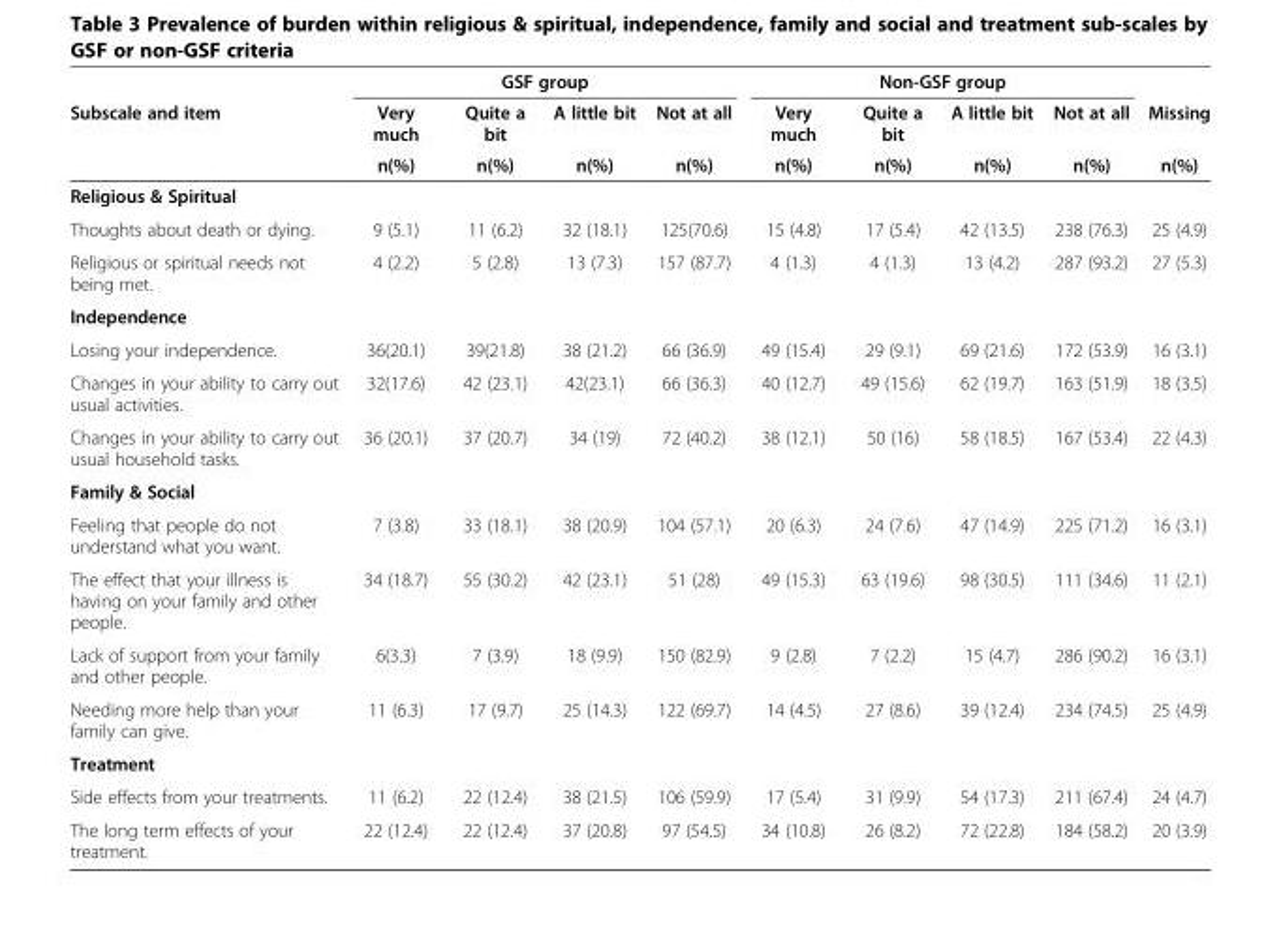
<table><thead><tr><td rowspan="3">Subscale and item</td><td colspan="4">GSF group</td><td colspan="4">Non-GSF group</td><td rowspan="3">Missing n(%)</td></tr><tr><td rowspan="2">Very much n(%)</td><td rowspan="2">Quite a bit n(%)</td><td rowspan="2">A little bit n(%)</td><td rowspan="2">Not at all n(%)</td><td rowspan="2">Very much n(%)</td><td rowspan="2">Quite a bit n(%)</td><td rowspan="2">A little bit n(%)</td><td rowspan="2">Not at all n(%)</td></tr><tr></tr></thead><tbody><tr><td colspan="10">Religious &amp; Spiritual</td></tr><tr><td>Thoughts about death or dying.</td><td>9 (5.1)</td><td>11 (6.2)</td><td>32 (18.1)</td><td>125(70.6)</td><td>15 (4.8)</td><td>17 (5.4)</td><td>42 (13.5)</td><td>238 (76.3)</td><td>25 (4.9)</td></tr><tr><td>Religious or spiritual needs not being met.</td><td>4 (2.2)</td><td>5 (2.8)</td><td>13 (7.3)</td><td>157 (87.7)</td><td>4 (1.3)</td><td>4 (1.3)</td><td>13 (4.2)</td><td>287 (93.2)</td><td>27 (5.3)</td></tr><tr><td colspan="10">Independence</td></tr><tr><td>Losing your independence.</td><td>36(20.1)</td><td>39(21.8)</td><td>38 (21.2)</td><td>66 (36.9)</td><td>49 (15.4)</td><td>29 (9.1)</td><td>69 (21.6)</td><td>172 (53.9)</td><td>16 (3.1)</td></tr><tr><td>Changes in your ability to carry out usual activities.</td><td>32(17.6)</td><td>42 (23.1)</td><td>42(23.1)</td><td>66 (36.3)</td><td>40 (12.7)</td><td>49 (15.6)</td><td>62 (19.7)</td><td>163 (51.9)</td><td>18 (3.5)</td></tr><tr><td>Changes in your ability to carry out usual household tasks.</td><td>36 (20.1)</td><td>37 (20.7)</td><td>34 (19)</td><td>72 (40.2)</td><td>38 (12.1)</td><td>50 (16)</td><td>58 (18.5)</td><td>167 (53.4)</td><td>22 (4.3)</td></tr><tr><td colspan="10">Family &amp; Social</td></tr><tr><td>Feeling that people do not understand what you want.</td><td>7 (3.8)</td><td>33 (18.1)</td><td>38 (20.9)</td><td>104 (57.1)</td><td>20 (6.3)</td><td>24 (7.6)</td><td>47 (14.9)</td><td>225 (71.2)</td><td>16 (3.1)</td></tr><tr><td>The effect that your illness is having on your family and other people.</td><td>34 (18.7)</td><td>55 (30.2)</td><td>42 (23.1)</td><td>51 (28)</td><td>49 (15.3)</td><td>63 (19.6)</td><td>98 (30.5)</td><td>111 (34.6)</td><td>11 (2.1)</td></tr><tr><td>Lack of support from your family and other people.</td><td>6(3.3)</td><td>7 (3.9)</td><td>18 (9.9)</td><td>150 (82.9)</td><td>9 (2.8)</td><td>7 (2.2)</td><td>15 (4.7)</td><td>286 (90.2)</td><td>16 (3.1)</td></tr><tr><td>Needing more help than your family can give.</td><td>11 (6.3)</td><td>17 (9.7)</td><td>25 (14.3)</td><td>122 (69.7)</td><td>14 (4.5)</td><td>27 (8.6)</td><td>39 (12.4)</td><td>234 (74.5)</td><td>25 (4.9)</td></tr><tr><td colspan="10">Treatment</td></tr><tr><td>Side effects from your treatments.</td><td>11 (6.2)</td><td>22 (12.4)</td><td>38 (21.5)</td><td>106 (59.9)</td><td>17 (5.4)</td><td>31 (9.9)</td><td>54 (17.3)</td><td>211 (67.4)</td><td>24 (4.7)</td></tr><tr><td>The long term effects of your treatment.</td><td>22 (12.4)</td><td>22 (12.4)</td><td>37 (20.8)</td><td>97 (54.5)</td><td>34 (10.8)</td><td>26 (8.2)</td><td>72 (22.8)</td><td>184 (58.2)</td><td>20 (3.9)</td></tr></tbody></table>